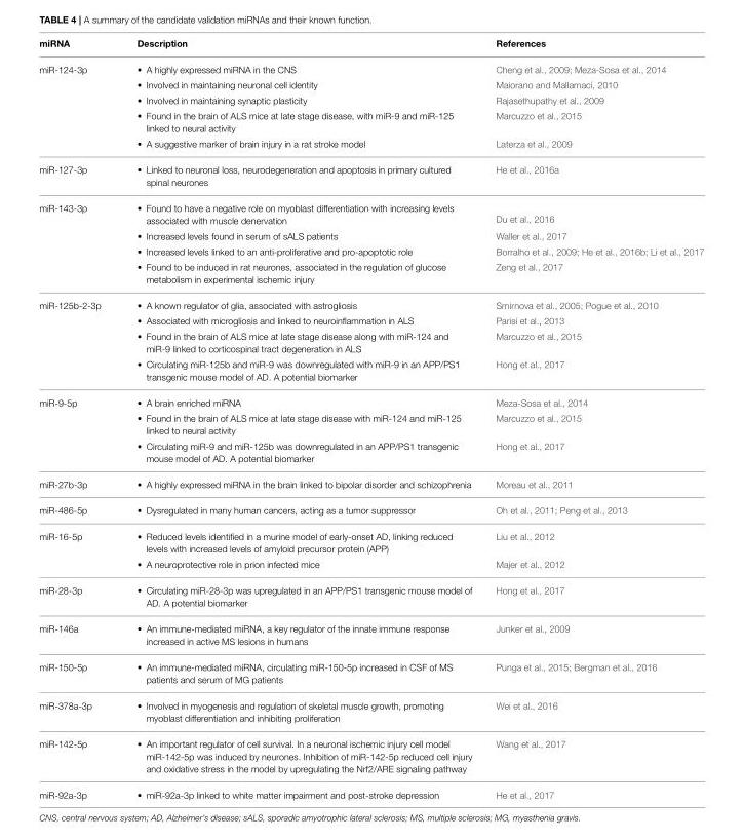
<table><thead><tr><td>miRNA</td><td>Description</td><td>References</td></tr></thead><tbody><tr><td rowspan="5">miR-124-3p</td><td>• A highly expressed miRNA in the CNS</td><td>Cheng et al., 2009; Meza-Sosa et al., 2014</td></tr><tr><td>• Involved in maintaining neuronal cell identity</td><td>Maiorano and Mallamaci, 2010</td></tr><tr><td>• Involved in maintaining synaptic plasticity</td><td>Rajasethupathy et al., 2009</td></tr><tr><td>• Found in the brain of ALS mice at late stage disease, with miR-9 and miR-125 linked to neural activity</td><td>Marcuzzo et al., 2015</td></tr><tr><td>• A suggestive marker of brain injury in a rat stroke model</td><td>Laterza et al., 2009</td></tr><tr><td>miR-127-3p</td><td>• Linked to neuronal loss, neurodegeneration and apoptosis in primary cultured spinal neurones</td><td>He et al., 2016a</td></tr><tr><td rowspan="4">miR-143-3p</td><td>• Found to have a negative role on myoblast differentiation with increasing levels associated with muscle denervation</td><td>Du et al., 2016</td></tr><tr><td>• Increased levels found in serum of sALS patients</td><td>Waller et al., 2017</td></tr><tr><td>• Increased levels linked to an anti-proliferative and pro-apoptotic role</td><td>Borralho et al., 2009; He et al., 2016b; Li et al., 2017</td></tr><tr><td>• Found to be induced in rat neurones, associated in the regulation of glucose metabolism in experimental ischemic injury</td><td>Zeng et al., 2017</td></tr><tr><td rowspan="4">miR-125b-2-3p</td><td>• A known regulator of glia, associated with astrogliosis</td><td>Smirnova et al., 2005; Pogue et al., 2010</td></tr><tr><td>• Associated with microgliosis and linked to neuroinflammation in ALS</td><td>Parisi et al., 2013</td></tr><tr><td>• Found in the brain of ALS mice at late stage disease along with miR-124 and miR-9 linked to corticospinal tract degeneration in ALS</td><td>Marcuzzo et al., 2015</td></tr><tr><td>• Circulating miR-125b and miR-9 was downregulated with miR-9 in an APP/PS1 transgenic mouse model of AD. A potential biomarker</td><td>Hong et al., 2017</td></tr><tr><td rowspan="3">miR-9-5p</td><td>• A brain enriched miRNA</td><td>Meza-Sosa et al., 2014</td></tr><tr><td>• Found in the brain of ALS mice at late stage disease with miR-124 and miR-125 linked to neural activity</td><td>Marcuzzo et al., 2015</td></tr><tr><td>• Circulating miR-9 and miR-125b was downregulated in an APP/PS1 transgenic mouse model of AD. A potential biomarker</td><td>Hong et al., 2017</td></tr><tr><td>miR-27b-3p</td><td>• A highly expressed miRNA in the brain linked to bipolar disorder and schizophrenia</td><td>Moreau et al., 2011</td></tr><tr><td>miR-486-5p</td><td>• Dysregulated in many human cancers, acting as a tumor suppressor</td><td>Oh et al., 2011; Peng et al., 2013</td></tr><tr><td rowspan="2">miR-16-5p</td><td>• Reduced levels identified in a murine model of early-onset AD, linking reduced levels with increased levels of amyloid precursor protein (APP)</td><td>Liu et al., 2012</td></tr><tr><td>• A neuroprotective role in prion infected mice</td><td>Majer et al., 2012</td></tr><tr><td>miR-28-3p</td><td>• Circulating miR-28-3p was upregulated in an APP/PS1 transgenic mouse model of AD. A potential biomarker</td><td>Hong et al., 2017</td></tr><tr><td>miR-146a</td><td>• An immune-mediated miRNA, a key regulator of the innate immune response increased in active MS lesions in humans</td><td>Junker et al., 2009</td></tr><tr><td>miR-150-5p</td><td>• An immune-mediated miRNA, circulating miR-150-5p increased in CSF of MS patients and serum of MG patients</td><td>Punga et al., 2015; Bergman et al., 2016</td></tr><tr><td>miR-378a-3p</td><td>• Involved in myogenesis and regulation of skeletal muscle growth, promoting myoblast differentiation and inhibiting proliferation</td><td>Wei et al., 2016</td></tr><tr><td>miR-142-5p</td><td>• An important regulator of cell survival. In a neuronal ischemic injury cell model miR-142-5p was induced by neurones. Inhibition of miR-142-5p reduced cell injury and oxidative stress in the model by upregulating the Nrf2/ARE signaling pathway</td><td>Wang et al., 2017</td></tr><tr><td>miR-92a-3p</td><td>• miR-92a-3p linked to white matter impairment and post-stroke depression</td><td>He et al., 2017</td></tr></tbody></table>